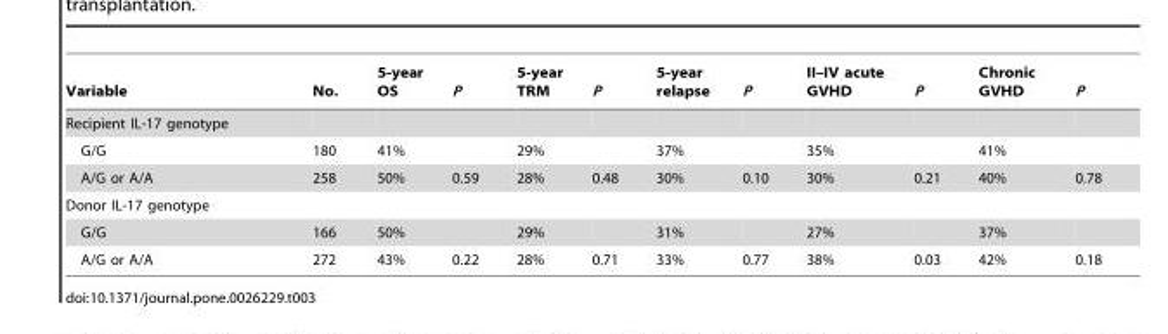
<table><thead><tr><td>Variable</td><td>No.</td><td>5-year OS</td><td>P</td><td>5-year TRM</td><td>P</td><td>5-year relapse</td><td>P</td><td>II–IV acute GVHD</td><td>P</td><td>Chronic GVHD</td><td>P</td></tr></thead><tbody><tr><td colspan="12">Recipient IL-17 genotype</td></tr><tr><td>G/G</td><td>180</td><td>41%</td><td></td><td>29%</td><td></td><td>37%</td><td></td><td>35%</td><td></td><td>41%</td><td></td></tr><tr><td>A/G or A/A</td><td>258</td><td>50%</td><td>0.59</td><td>28%</td><td>0.48</td><td>30%</td><td>0.10</td><td>30%</td><td>0.21</td><td>40%</td><td>0.78</td></tr><tr><td colspan="12">Donor IL-17 genotype</td></tr><tr><td>G/G</td><td>166</td><td>50%</td><td></td><td>29%</td><td></td><td>31%</td><td></td><td>27%</td><td></td><td>37%</td><td></td></tr><tr><td>A/G or A/A</td><td>272</td><td>43%</td><td>0.22</td><td>28%</td><td>0.71</td><td>33%</td><td>0.77</td><td>38%</td><td>0.03</td><td>42%</td><td>0.18</td></tr></tbody></table>